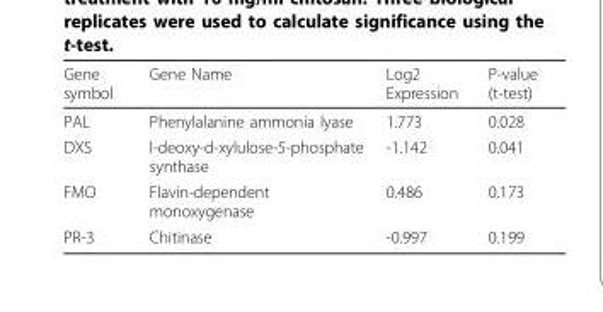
<table><thead><tr><td>Gene symbol</td><td>Gene Name</td><td>Log2 Expression</td><td>P-value (t-test)</td></tr></thead><tbody><tr><td>PAL</td><td>Phenylalanine ammonia lyase</td><td>1.773</td><td>0.028</td></tr><tr><td>DXS</td><td>l-deoxy-d-xylulose-5-phosphate synthase</td><td>-1.142</td><td>0.041</td></tr><tr><td>FMO</td><td>Flavin-dependent monoxygenase</td><td>0.486</td><td>0.173</td></tr><tr><td>PR-3</td><td>Chitinase</td><td>-0.997</td><td>0.199</td></tr></tbody></table>